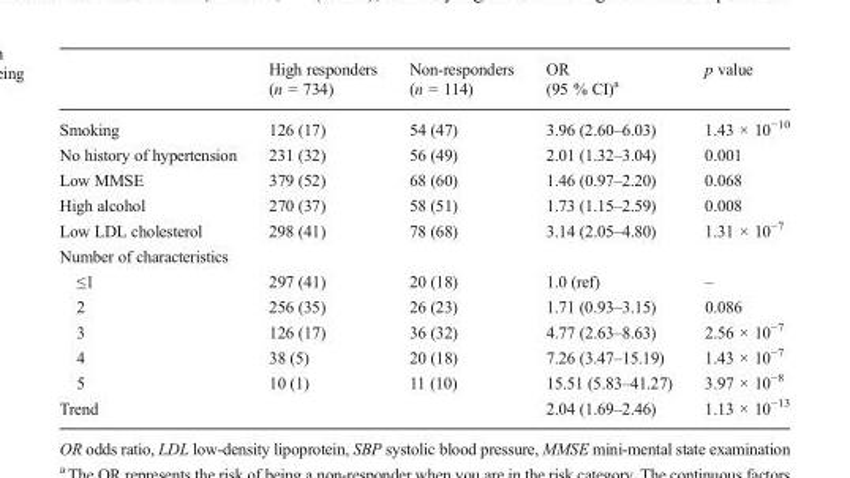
<table><thead><tr><td></td><td>High responders (n = 734)</td><td>Non-responders (n = 114)</td><td>OR (95 % CI)<sup>a</sup></td><td>p value</td></tr></thead><tbody><tr><td>Smoking</td><td>126 (17)</td><td>54 (47)</td><td>3.96 (2.60–6.03)</td><td>1.43 × 10<sup>−10</sup></td></tr><tr><td>No history of hypertension</td><td>231 (32)</td><td>56 (49)</td><td>2.01 (1.32–3.04)</td><td>0.001</td></tr><tr><td>Low MMSE</td><td>379 (52)</td><td>68 (60)</td><td>1.46 (0.97–2.20)</td><td>0.068</td></tr><tr><td>High alcohol</td><td>270 (37)</td><td>58 (51)</td><td>1.73 (1.15–2.59)</td><td>0.008</td></tr><tr><td>Low LDL cholesterol</td><td>298 (41)</td><td>78 (68)</td><td>3.14 (2.05–4.80)</td><td>1.31 × 10<sup>−7</sup></td></tr><tr><td colspan="5">Number of characteristics</td></tr><tr><td>≤1</td><td>297 (41)</td><td>20 (18)</td><td>1.0 (ref)</td><td>–</td></tr><tr><td>2</td><td>256 (35)</td><td>26 (23)</td><td>1.71 (0.93–3.15)</td><td>0.086</td></tr><tr><td>3</td><td>126 (17)</td><td>36 (32)</td><td>4.77 (2.63–8.63)</td><td>2.56 × 10<sup>−7</sup></td></tr><tr><td>4</td><td>38 (5)</td><td>20 (18)</td><td>7.26 (3.47–15.19)</td><td>1.43 × 10<sup>−7</sup></td></tr><tr><td>5</td><td>10 (1)</td><td>11 (10)</td><td>15.51 (5.83–41.27)</td><td>3.97 × 10<sup>−8</sup></td></tr><tr><td>Trend</td><td></td><td></td><td>2.04 (1.69–2.46)</td><td>1.13 × 10<sup>−13</sup></td></tr></tbody></table>